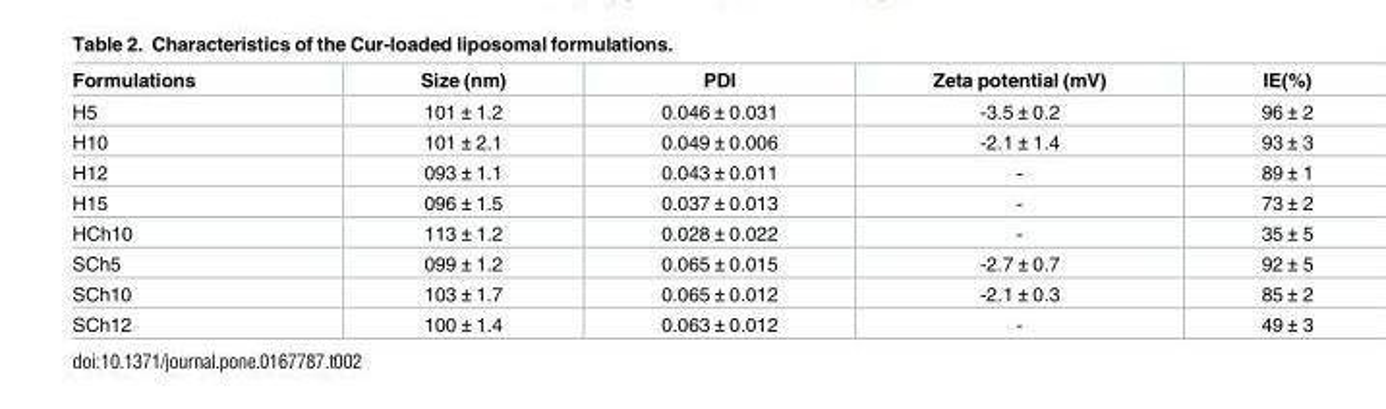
<table><thead><tr><td>Formulations</td><td>Size (nm)</td><td>PDI</td><td>Zeta potential (mV)</td><td>IE(%)</td></tr></thead><tbody><tr><td>H5</td><td>101 ± 1.2</td><td>0.046 ± 0.031</td><td>-3.5 ± 0.2</td><td>96 ± 2</td></tr><tr><td>H10</td><td>101 ± 2.1</td><td>0.049 ± 0.006</td><td>-2.1 ± 1.4</td><td>93 ± 3</td></tr><tr><td>H12</td><td>093 ± 1.1</td><td>0.043 ± 0.011</td><td>-</td><td>89 ± 1</td></tr><tr><td>H15</td><td>096 ± 1.5</td><td>0.037 ± 0.013</td><td>-</td><td>73 ± 2</td></tr><tr><td>HCh10</td><td>113 ± 1.2</td><td>0.028 ± 0.022</td><td>-</td><td>35 ± 5</td></tr><tr><td>SCh5</td><td>099 ± 1.2</td><td>0.065 ± 0.015</td><td>-2.7 ± 0.7</td><td>92 ± 5</td></tr><tr><td>SCh10</td><td>103 ± 1.7</td><td>0.065 ± 0.012</td><td>-2.1 ± 0.3</td><td>85 ± 2</td></tr><tr><td>SCh12</td><td>100 ± 1.4</td><td>0.063 ± 0.012</td><td>-</td><td>49 ± 3</td></tr></tbody></table>